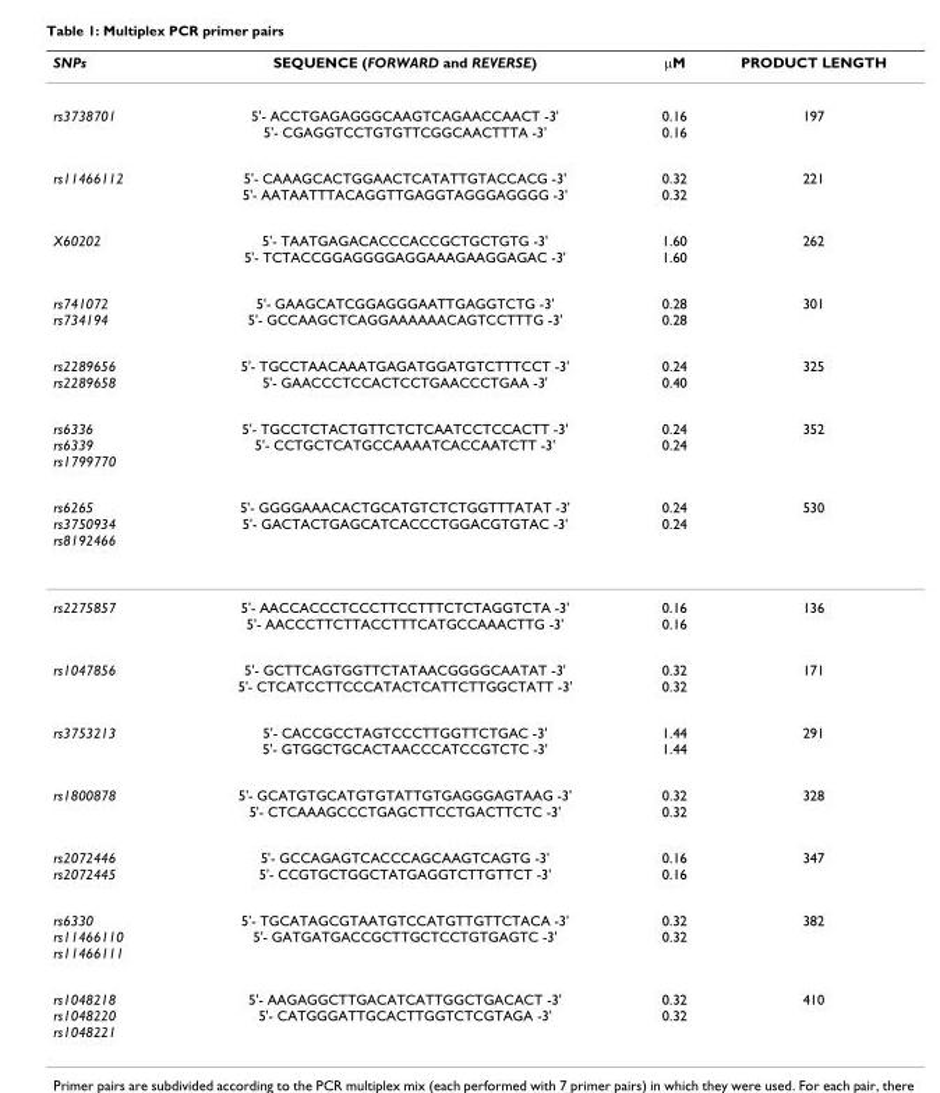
<table><thead><tr><td>SNPs</td><td>SEQUENCE (FORWARD and REVERSE)</td><td>µM</td><td>PRODUCT LENGTH</td></tr></thead><tbody><tr><td>rs3738701</td><td>5&#x27;- ACCTGAGAGGGCAAGTCAGAACCAACT -3&#x27; 5&#x27;- CGAGGTCCTGTGTTCGGCAACTTTA -3&#x27;</td><td>0.16 0.16</td><td>197</td></tr><tr><td>rs11466112</td><td>5&#x27;- CAAAGCACTGGAACTCATATTGTACCACG -3&#x27; 5&#x27;- AATAATTTACAGGTTGAGGTAGGGAGGGG -3&#x27;</td><td>0.32 0.32</td><td>221</td></tr><tr><td>X60202</td><td>5&#x27;- TAATGAGACACCCACCGCTGCTGTG -3&#x27; 5&#x27;- TCTACCGGAGGGGAGGAAAGAAGGAGAC -3&#x27;</td><td>1.60 1.60</td><td>262</td></tr><tr><td>rs741072 rs734194</td><td>5&#x27;- GAAGCATCGGAGGGAATTGAGGTCTG -3&#x27; 5&#x27;- GCCAAGCTCAGGAAAAAACAGTCCTTTG -3&#x27;</td><td>0.28 0.28</td><td>301</td></tr><tr><td>rs2289656 rs2289658</td><td>5&#x27;- TGCCTAACAAATGAGATGGATGTCTTTCCT -3&#x27; 5&#x27;- GAACCCTCCACTCCTGAACCCTGAA -3&#x27;</td><td>0.24 0.40</td><td>325</td></tr><tr><td>rs6336 rs6339 rs1799770</td><td>5&#x27;- TGCCTCTACTGTTCTCTCAATCCTCCACTT -3&#x27; 5&#x27;- CCTGCTCATGCCAAAATCACCAATCTT -3&#x27;</td><td>0.24 0.24</td><td>352</td></tr><tr><td>rs6265 rs3750934 rs8192466</td><td>5&#x27;- GGGGAAACACTGCATGTCTCTGGTTTATAT -3&#x27; 5&#x27;- GACTACTGAGCATCACCCTGGACGTGTAC -3&#x27;</td><td>0.24 0.24</td><td>530</td></tr><tr><td>rs2275857</td><td>5&#x27;- AACCACCCTCCCTTCCTTTCTCTAGGTCTA -3&#x27; 5&#x27;- AACCCTTCTTACCTTTCATGCCAAACTTG -3&#x27;</td><td>0.16 0.16</td><td>136</td></tr><tr><td>rs1047856</td><td>5&#x27;- GCTTCAGTGGTTCTATAACGGGGCAATAT -3&#x27; 5&#x27;- CTCATCCTTCCCATACTCATTCTTGGCTATT -3&#x27;</td><td>0.32 0.32</td><td>171</td></tr><tr><td>rs3753213</td><td>5&#x27;- CACCGCCTAGTCCCTTGGTTCTGAC -3&#x27; 5&#x27;- GTGGCTGCACTAACCCATCCGTCTC -3&#x27;</td><td>1.44 1.44</td><td>291</td></tr><tr><td>rs1800878</td><td>5&#x27;- GCATGTGCATGTGTATTGTGAGGGAGTAAG -3&#x27; 5&#x27;- CTCAAAGCCCTGAGCTTCCTGACTTCTC -3&#x27;</td><td>0.32 0.32</td><td>328</td></tr><tr><td>rs2072446 rs2072445</td><td>5&#x27;- GCCAGAGTCACCCAGCAAGTCAGTG -3&#x27; 5&#x27;- CCGTGCTGGCTATGAGGTCTTGTTCT -3&#x27;</td><td>0.16 0.16</td><td>347</td></tr><tr><td>rs6330 rs11466110 rs11466111</td><td>5&#x27;- TGCATAGCGTAATGTCCATGTTGTTCTACA -3&#x27; 5&#x27;- GATGATGACCGCTTGCTCCTGTGAGTC -3&#x27;</td><td>0.32 0.32</td><td>382</td></tr><tr><td>rs1048218 rs1048220 rs1048221</td><td>5&#x27;- AAGAGGCTTGACATCATTGGCTGACACT -3&#x27; 5&#x27;- CATGGGATTGCACTTGGTCTCGTAGA -3&#x27;</td><td>0.32 0.32</td><td>410</td></tr></tbody></table>